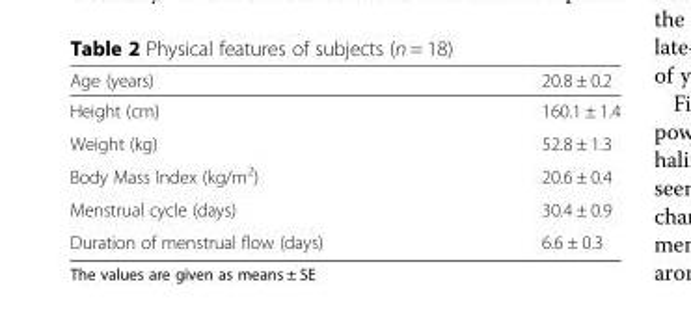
<table><thead><tr><td>Age (years)</td><td>20.8 ± 0.2</td></tr></thead><tbody><tr><td>Height (cm)</td><td>160.1 ± 1.4</td></tr><tr><td>Weight (kg)</td><td>52.8 ± 1.3</td></tr><tr><td>Body Mass Index (kg/m<sup>2</sup>)</td><td>20.6 ± 0.4</td></tr><tr><td>Menstrual cycle (days)</td><td>30.4 ± 0.9</td></tr><tr><td>Duration of menstrual flow (days)</td><td>6.6 ± 0.3</td></tr></tbody></table>